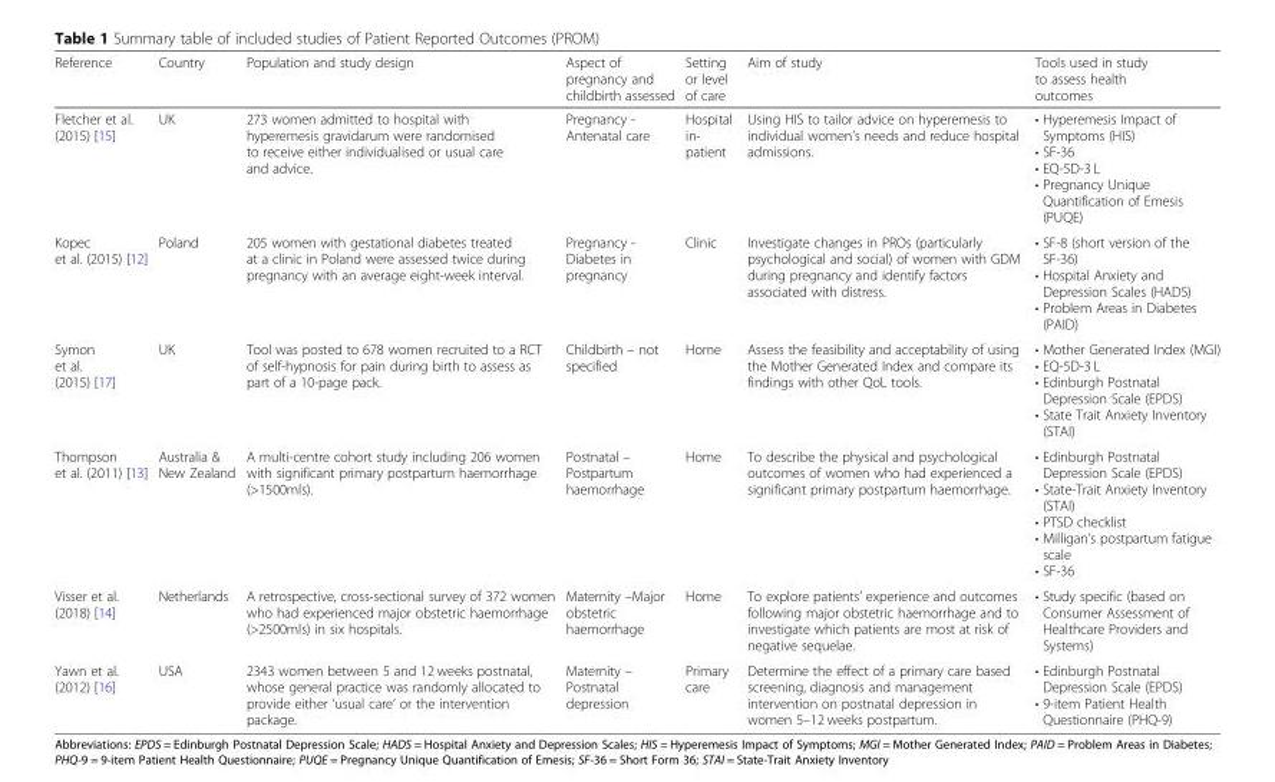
<table><thead><tr><td>Reference</td><td>Country</td><td>Population and study design</td><td>Aspect of pregnancy and childbirth assessed</td><td>Setting or level of care</td><td>Aim of study</td><td>Tools used in study to assess health outcomes</td></tr></thead><tbody><tr><td>Fletcher et al. (2015) [15]</td><td>UK</td><td>273 women admitted to hospital with hyperemesis gravidarum were randomised to receive either individualised or usual care and advice.</td><td>Pregnancy - Antenatal care</td><td>Hospital in- patient</td><td>Using HIS to tailor advice on hyperemesis to individual women’s needs and reduce hospital admissions.</td><td>• Hyperemesis Impact of Symptoms (HIS) • SF-36 • EQ-5D-3 L • Pregnancy Unique Quantification of Emesis (PUQE)</td></tr><tr><td>Kopec et al. (2015) [12]</td><td>Poland</td><td>205 women with gestational diabetes treated at a clinic in Poland were assessed twice during pregnancy with an average eight-week interval.</td><td>Pregnancy - Diabetes in pregnancy</td><td>Clinic</td><td>Investigate changes in PROs (particularly psychological and social) of women with GDM during pregnancy and identify factors associated with distress.</td><td>• SF-8 (short version of the SF-36) • Hospital Anxiety and Depression Scales (HADS) • Problem Areas in Diabetes (PAID)</td></tr><tr><td>Symon et al. (2015) [17]</td><td>UK</td><td>Tool was posted to 678 women recruited to a RCT of self-hypnosis for pain during birth to assess as part of a 10-page pack.</td><td>Childbirth – not specified</td><td>Home</td><td>Assess the feasibility and acceptability of using the Mother Generated Index and compare its findings with other QoL tools.</td><td>• Mother Generated Index (MGI) • EQ-5D-3 L • Edinburgh Postnatal Depression Scale (EPDS) • State Trait Anxiety Inventory (STAI)</td></tr><tr><td>Thompson et al. (2011) [13]</td><td>Australia &amp; New Zealand</td><td>A multi-centre cohort study including 206 women with significant primary postpartum haemorrhage (&gt;1500mls).</td><td>Postnatal – Postpartum haemorrhage</td><td>Home</td><td>To describe the physical and psychological outcomes of women who had experienced a significant primary postpartum haemorrhage.</td><td>• Edinburgh Postnatal Depression Scale (EPDS) • State-Trait Anxiety Inventory (STAI) • PTSD checklist • Milligan’s postpartum fatigue scale • SF-36</td></tr><tr><td>Visser et al. (2018) [14]</td><td>Netherlands</td><td>A retrospective, cross-sectional survey of 372 women who had experienced major obstetric haemorrhage (&gt;2500mls) in six hospitals.</td><td>Maternity –Major obstetric haemorrhage</td><td>Home</td><td>To explore patients’ experience and outcomes following major obstetric haemorrhage and to investigate which patients are most at risk of negative sequelae.</td><td>• Study specific (based on Consumer Assessment of Healthcare Providers and Systems)</td></tr><tr><td>Yawn et al. (2012) [16]</td><td>USA</td><td>2343 women between 5 and 12 weeks postnatal, whose general practice was randomly allocated to provide either ‘usual care’ or the intervention package.</td><td>Maternity – Postnatal depression</td><td>Primary care</td><td>Determine the effect of a primary care based screening, diagnosis and management intervention on postnatal depression in women 5–12 weeks postpartum.</td><td>• Edinburgh Postnatal Depression Scale (EPDS) • 9-item Patient Health Questionnaire (PHQ-9)</td></tr></tbody></table>